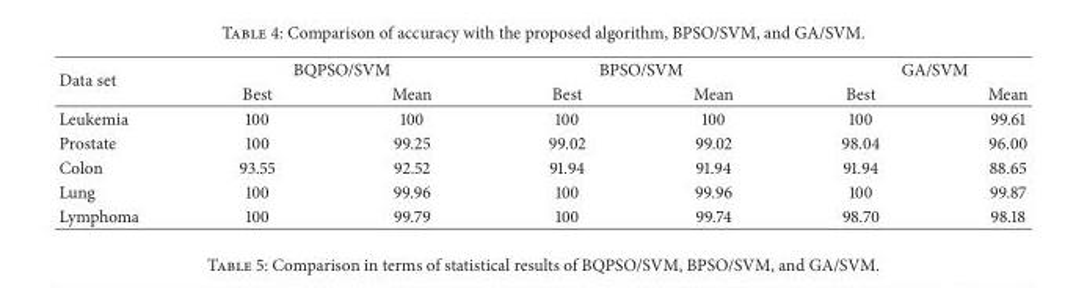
<table><thead><tr><td rowspan="2">Data set</td><td colspan="2">BQPSO/SVM</td><td colspan="2">BPSO/SVM</td><td colspan="2">GA/SVM</td></tr><tr><td>Best</td><td>Mean</td><td>Best</td><td>Mean</td><td>Best</td><td>Mean</td></tr></thead><tbody><tr><td>Leukemia</td><td>100</td><td>100</td><td>100</td><td>100</td><td>100</td><td>99.61</td></tr><tr><td>Prostate</td><td>100</td><td>99.25</td><td>99.02</td><td>99.02</td><td>98.04</td><td>96.00</td></tr><tr><td>Colon</td><td>93.55</td><td>92.52</td><td>91.94</td><td>91.94</td><td>91.94</td><td>88.65</td></tr><tr><td>Lung</td><td>100</td><td>99.96</td><td>100</td><td>99.96</td><td>100</td><td>99.87</td></tr><tr><td>Lymphoma</td><td>100</td><td>99.79</td><td>100</td><td>99.74</td><td>98.70</td><td>98.18</td></tr></tbody></table>